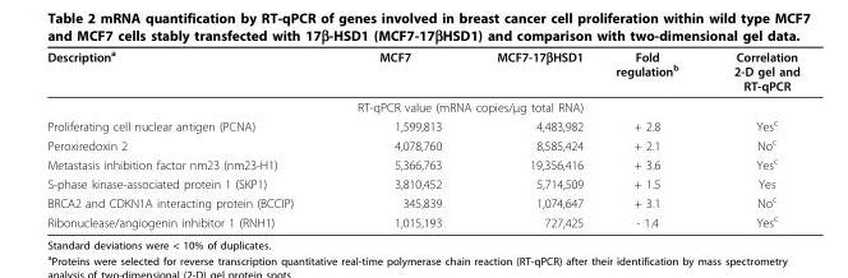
<table><thead><tr><td>Description<sup>a</sup></td><td>MCF7</td><td>MCF7-17βHSD1</td><td>Fold regulation<sup>b</sup></td><td>Correlation 2-D gel and RT-qPCR</td></tr></thead><tbody><tr><td colspan="5">RT-qPCR value (mRNA copies/µg total RNA)</td></tr><tr><td>Proliferating cell nuclear antigen (PCNA)</td><td>1,599,813</td><td>4,483,982</td><td>+ 2.8</td><td>Yes<sup>c</sup></td></tr><tr><td>Peroxiredoxin 2</td><td>4,078,760</td><td>8,585,424</td><td>+ 2.1</td><td>No<sup>c</sup></td></tr><tr><td>Metastasis inhibition factor nm23 (nm23-H1)</td><td>5,366,763</td><td>19,356,416</td><td>+ 3.6</td><td>Yes<sup>c</sup></td></tr><tr><td>S-phase kinase-associated protein 1 (SKP1)</td><td>3,810,452</td><td>5,714,509</td><td>+ 1.5</td><td>Yes</td></tr><tr><td>BRCA2 and CDKN1A interacting protein (BCCIP)</td><td>345,839</td><td>1,074,647</td><td>+ 3.1</td><td>No<sup>c</sup></td></tr><tr><td>Ribonuclease/angiogenin inhibitor 1 (RNH1)</td><td>1,015,193</td><td>727,425</td><td>- 1.4</td><td>Yes<sup>c</sup></td></tr></tbody></table>